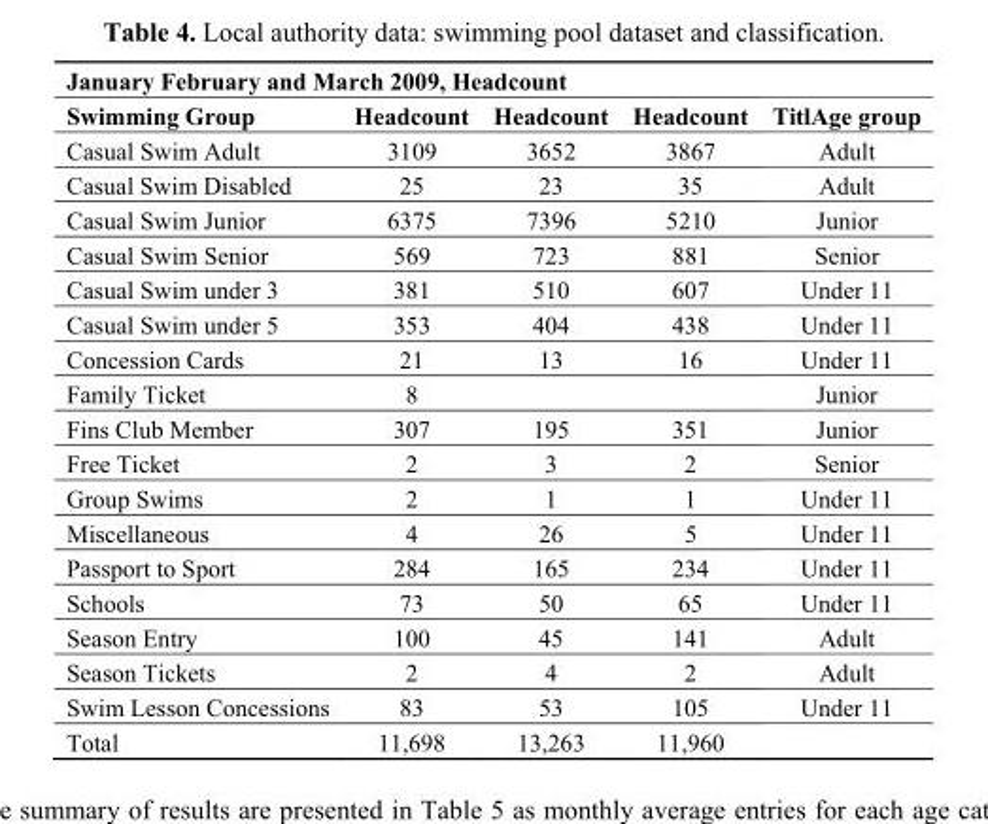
<table><thead><tr><td colspan="5">January February and March 2009, Headcount</td></tr><tr><td>Swimming Group</td><td>Headcount</td><td>Headcount</td><td>Headcount</td><td>TitlAge group</td></tr></thead><tbody><tr><td>Casual Swim Adult</td><td>3109</td><td>3652</td><td>3867</td><td>Adult</td></tr><tr><td>Casual Swim Disabled</td><td>25</td><td>23</td><td>35</td><td>Adult</td></tr><tr><td>Casual Swim Junior</td><td>6375</td><td>7396</td><td>5210</td><td>Junior</td></tr><tr><td>Casual Swim Senior</td><td>569</td><td>723</td><td>881</td><td>Senior</td></tr><tr><td>Casual Swim under 3</td><td>381</td><td>510</td><td>607</td><td>Under 11</td></tr><tr><td>Casual Swim under 5</td><td>353</td><td>404</td><td>438</td><td>Under 11</td></tr><tr><td>Concession Cards</td><td>21</td><td>13</td><td>16</td><td>Under 11</td></tr><tr><td>Family Ticket</td><td>8</td><td></td><td></td><td>Junior</td></tr><tr><td>Fins Club Member</td><td>307</td><td>195</td><td>351</td><td>Junior</td></tr><tr><td>Free Ticket</td><td>2</td><td>3</td><td>2</td><td>Senior</td></tr><tr><td>Group Swims</td><td>2</td><td>1</td><td>1</td><td>Under 11</td></tr><tr><td>Miscellaneous</td><td>4</td><td>26</td><td>5</td><td>Under 11</td></tr><tr><td>Passport to Sport</td><td>284</td><td>165</td><td>234</td><td>Under 11</td></tr><tr><td>Schools</td><td>73</td><td>50</td><td>65</td><td>Under 11</td></tr><tr><td>Season Entry</td><td>100</td><td>45</td><td>141</td><td>Adult</td></tr><tr><td>Season Tickets</td><td>2</td><td>4</td><td>2</td><td>Adult</td></tr><tr><td>Swim Lesson Concessions</td><td>83</td><td>53</td><td>105</td><td>Under 11</td></tr><tr><td>Total</td><td>11,698</td><td>13,263</td><td>11,960</td><td></td></tr></tbody></table>